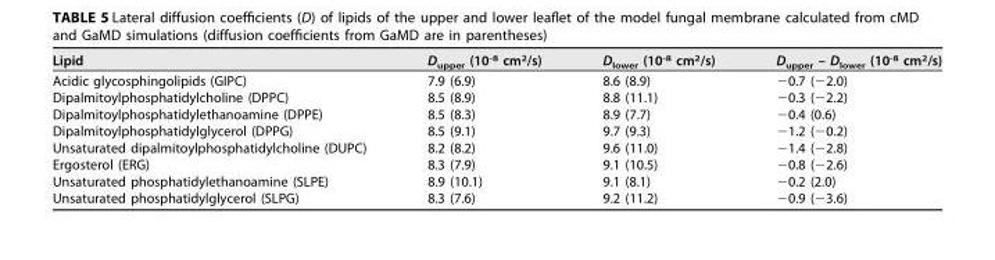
<table><thead><tr><td>Lipid</td><td>D<sub>upper</sub> (10<sup>-8</sup> cm<sup>2</sup>/s)</td><td>D<sub>lower</sub> (10<sup>-8</sup> cm<sup>2</sup>/s)</td><td>D<sub>upper</sub> – D<sub>lower</sub> (10<sup>-8</sup> cm<sup>2</sup>/s)</td></tr></thead><tbody><tr><td>Acidic glycosphingolipids (GIPC)</td><td>7.9 (6.9)</td><td>8.6 (8.9)</td><td>−0.7 (−2.0)</td></tr><tr><td>Dipalmitoylphosphatidylcholine (DPPC)</td><td>8.5 (8.9)</td><td>8.8 (11.1)</td><td>−0.3 (−2.2)</td></tr><tr><td>Dipalmitoylphosphatidylethanoamine (DPPE)</td><td>8.5 (8.3)</td><td>8.9 (7.7)</td><td>−0.4 (0.6)</td></tr><tr><td>Dipalmitoylphosphatidylglycerol (DPPG)</td><td>8.5 (9.1)</td><td>9.7 (9.3)</td><td>−1.2 (−0.2)</td></tr><tr><td>Unsaturated dipalmitoylphosphatidylcholine (DUPC)</td><td>8.2 (8.2)</td><td>9.6 (11.0)</td><td>−1.4 (−2.8)</td></tr><tr><td>Ergosterol (ERG)</td><td>8.3 (7.9)</td><td>9.1 (10.5)</td><td>−0.8 (−2.6)</td></tr><tr><td>Unsaturated phosphatidylethanoamine (SLPE)</td><td>8.9 (10.1)</td><td>9.1 (8.1)</td><td>−0.2 (2.0)</td></tr><tr><td>Unsaturated phosphatidylglycerol (SLPG)</td><td>8.3 (7.6)</td><td>9.2 (11.2)</td><td>−0.9 (−3.6)</td></tr></tbody></table>